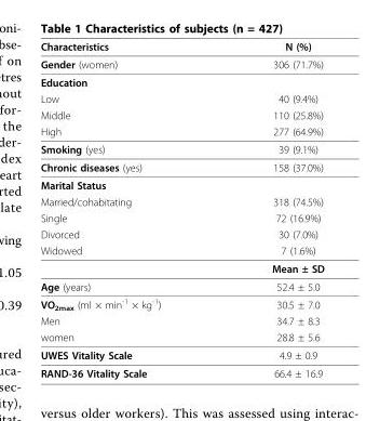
<table><thead><tr><td>Characteristics</td><td>N (%)</td></tr></thead><tbody><tr><td>Gender (women)</td><td>306 (71.7%)</td></tr><tr><td colspan="2">Education</td></tr><tr><td>Low</td><td>40 (9.4%)</td></tr><tr><td>Middle</td><td>110 (25.8%)</td></tr><tr><td>High</td><td>277 (64.9%)</td></tr><tr><td>Smoking (yes)</td><td>39 (9.1%)</td></tr><tr><td>Chronic diseases (yes)</td><td>158 (37.0%)</td></tr><tr><td colspan="2">Marital Status</td></tr><tr><td>Married/cohabitating</td><td>318 (74.5%)</td></tr><tr><td>Single</td><td>72 (16.9%)</td></tr><tr><td>Divorced</td><td>30 (7.0%)</td></tr><tr><td rowspan="2">Widowed</td><td>7 (1.6%)</td></tr><tr><td>Mean ± SD</td></tr><tr><td>Age (years)</td><td>52.4 ± 5.0</td></tr><tr><td>VO<sub>2max</sub> (ml × min<sup>-1</sup> × kg<sup>-1</sup>)</td><td>30.5 ± 7.0</td></tr><tr><td>Men</td><td>34.7 ± 8.3</td></tr><tr><td>women</td><td>28.8 ± 5.6</td></tr><tr><td>UWES Vitality Scale</td><td>4.9 ± 0.9</td></tr><tr><td>RAND-36 Vitality Scale</td><td>66.4 ± 16.9</td></tr></tbody></table>